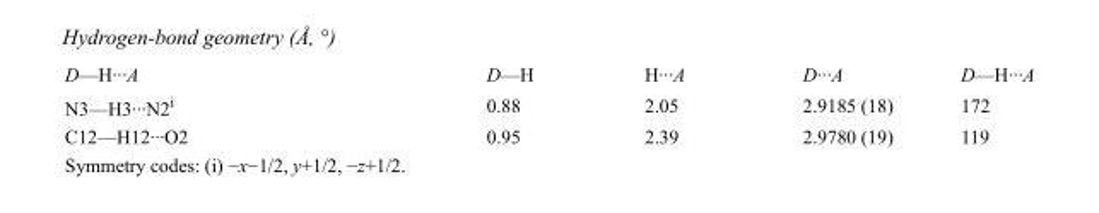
<table><tbody><tr><td>D—H···A</td><td>D—H</td><td>H···A</td><td>D···A</td><td>D—H···A</td></tr><tr><td>N3—H3···N2<sup>i</sup></td><td>0.88</td><td>2.05</td><td>2.9185 (18)</td><td>172</td></tr><tr><td>C12—H12···O2</td><td>0.95</td><td>2.39</td><td>2.9780 (19)</td><td>119</td></tr></tbody></table>